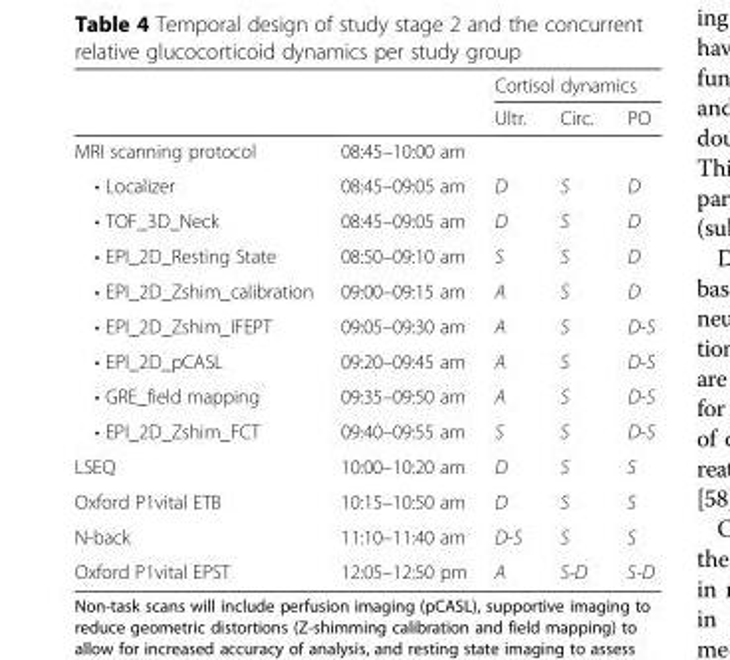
<table><thead><tr><td rowspan="2"></td><td rowspan="2"></td><td colspan="3">Cortisol dynamics</td></tr><tr><td>Ultr.</td><td>Circ.</td><td>PO</td></tr></thead><tbody><tr><td>MRI scanning protocol</td><td>08:45–10:00 am</td><td></td><td></td><td></td></tr><tr><td>• Localizer</td><td>08:45–09:05 am</td><td>D</td><td>S</td><td>D</td></tr><tr><td>• TOF_3D_Neck</td><td>08:45–09:05 am</td><td>D</td><td>S</td><td>D</td></tr><tr><td>• EPI_2D_Resting State</td><td>08:50–09:10 am</td><td>S</td><td>S</td><td>D</td></tr><tr><td>• EPI_2D_Zshim_calibration</td><td>09:00–09:15 am</td><td>A</td><td>S</td><td>D</td></tr><tr><td>• EPI_2D_Zshim_IFEPT</td><td>09:05–09:30 am</td><td>A</td><td>S</td><td>D-S</td></tr><tr><td>• EPI_2D_pCASL</td><td>09:20–09:45 am</td><td>A</td><td>S</td><td>D-S</td></tr><tr><td>• GRE_field mapping</td><td>09:35–09:50 am</td><td>A</td><td>S</td><td>D-S</td></tr><tr><td>• EPI_2D_Zshim_FCT</td><td>09:40–09:55 am</td><td>S</td><td>S</td><td>D-S</td></tr><tr><td>LSEQ</td><td>10:00–10:20 am</td><td>D</td><td>S</td><td>S</td></tr><tr><td>Oxford P1vital ETB</td><td>10:15–10:50 am</td><td>D</td><td>S</td><td>S</td></tr><tr><td>N-back</td><td>11:10–11:40 am</td><td>D-S</td><td>S</td><td>S</td></tr><tr><td>Oxford P1vital EPST</td><td>12:05–12:50 pm</td><td>A</td><td>S-D</td><td>S-D</td></tr></tbody></table>